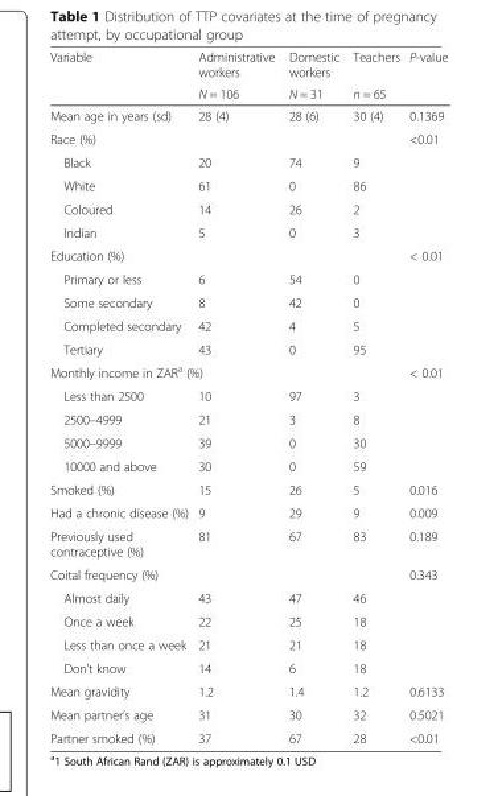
<table><thead><tr><td rowspan="2">Variable</td><td rowspan="2">Administrative workers N = 106</td><td rowspan="2">Domestic workers N = 31</td><td rowspan="2">Teachers n = 65</td><td rowspan="2">P-value</td></tr><tr></tr></thead><tbody><tr><td>Mean age in years (sd)</td><td>28 (4)</td><td>28 (6)</td><td>30 (4)</td><td>0.1369</td></tr><tr><td colspan="4">Race (%)</td><td rowspan="5">&lt;0.01</td></tr><tr><td>Black</td><td>20</td><td>74</td><td>9</td></tr><tr><td>White</td><td>61</td><td>0</td><td>86</td></tr><tr><td>Coloured</td><td>14</td><td>26</td><td>2</td></tr><tr><td>Indian</td><td>5</td><td>0</td><td>3</td></tr><tr><td colspan="4">Education (%)</td><td rowspan="5">&lt; 0.01</td></tr><tr><td>Primary or less</td><td>6</td><td>54</td><td>0</td></tr><tr><td>Some secondary</td><td>8</td><td>42</td><td>0</td></tr><tr><td>Completed secondary</td><td>42</td><td>4</td><td>5</td></tr><tr><td>Tertiary</td><td>43</td><td>0</td><td>95</td></tr><tr><td colspan="4">Monthly income in ZAR<sup>a</sup> (%)</td><td rowspan="5">&lt; 0.01</td></tr><tr><td>Less than 2500</td><td>10</td><td>97</td><td>3</td></tr><tr><td>2500–4999</td><td>21</td><td>3</td><td>8</td></tr><tr><td>5000–9999</td><td>39</td><td>0</td><td>30</td></tr><tr><td>10000 and above</td><td>30</td><td>0</td><td>59</td></tr><tr><td>Smoked (%)</td><td>15</td><td>26</td><td>5</td><td>0.016</td></tr><tr><td>Had a chronic disease (%)</td><td>9</td><td>29</td><td>9</td><td>0.009</td></tr><tr><td>Previously used contraceptive (%)</td><td>81</td><td>67</td><td>83</td><td>0.189</td></tr><tr><td colspan="4">Coital frequency (%)</td><td rowspan="5">0.343</td></tr><tr><td>Almost daily</td><td>43</td><td>47</td><td>46</td></tr><tr><td>Once a week</td><td>22</td><td>25</td><td>18</td></tr><tr><td>Less than once a week</td><td>21</td><td>21</td><td>18</td></tr><tr><td>Don’t know</td><td>14</td><td>6</td><td>18</td></tr><tr><td>Mean gravidity</td><td>1.2</td><td>1.4</td><td>1.2</td><td>0.6133</td></tr><tr><td>Mean partner’s age</td><td>31</td><td>30</td><td>32</td><td>0.5021</td></tr><tr><td>Partner smoked (%)</td><td>37</td><td>67</td><td>28</td><td>&lt;0.01</td></tr></tbody></table>